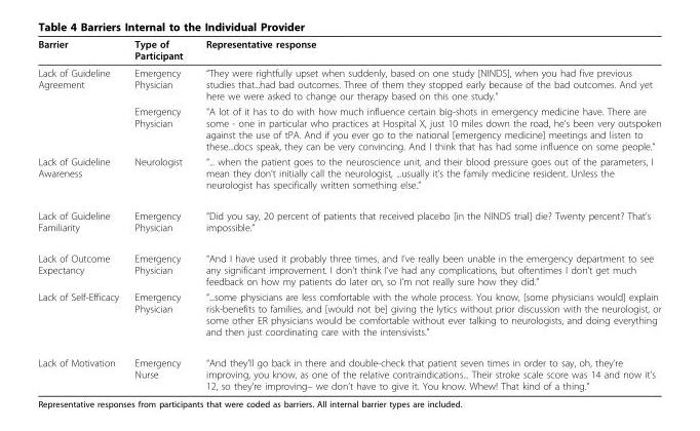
<table><thead><tr><td>Barrier</td><td>Type of Participant</td><td>Representative response</td></tr></thead><tbody><tr><td rowspan="2">Lack of Guideline Agreement</td><td>Emergency Physician</td><td>“They were rightfully upset when suddenly, based on one study [NINDS], when you had five previous studies that...had bad outcomes. Three of them they stopped early because of the bad outcomes. And yet here we were asked to change our therapy based on this one study.”</td></tr><tr><td>Emergency Physician</td><td>“A lot of it has to do with how much influence certain big-shots in emergency medicine have. There are some - one in particular who practices at Hospital X, just 10 miles down the road, he’s been very outspoken against the use of tPA. And if you ever go to the national [emergency medicine] meetings and listen to these...docs speak, they can be very convincing. And I think that has had some influence on some people.”</td></tr><tr><td>Lack of Guideline Awareness</td><td>Neurologist</td><td>“... when the patient goes to the neuroscience unit, and their blood pressure goes out of the parameters, I mean they don’t initially call the neurologist, ...usually it’s the family medicine resident. Unless the neurologist has specifically written something else.”</td></tr><tr><td>Lack of Guideline Familiarity</td><td>Emergency Physician</td><td>“Did you say, 20 percent of patients that received placebo [in the NINDS trial] die? Twenty percent? That’s impossible.”</td></tr><tr><td>Lack of Outcome Expectancy</td><td>Emergency Physician</td><td>“And I have used it probably three times, and I’ve really been unable in the emergency department to see any significant improvement. I don’t think I’ve had any complications, but oftentimes I don’t get much feedback on how my patients do later on, so I’m not really sure how they did.”</td></tr><tr><td>Lack of Self-Efficacy</td><td>Emergency Physician</td><td>“...some physicians are less comfortable with the whole process. You know, [some physicians would] explain risk-benefits to families, and [would not be] giving the lytics without prior discussion with the neurologist, or some other ER physicians would be comfortable without ever talking to neurologists, and doing everything and then just coordinating care with the intensivists.”</td></tr><tr><td>Lack of Motivation</td><td>Emergency Nurse</td><td>“And they’ll go back in there and double-check that patient seven times in order to say, oh, they’re improving, you know, as one of the relative contraindications... Their stroke scale score was 14 and now it’s 12, so they’re improving– we don’t have to give it. You know. Whew! That kind of a thing.”</td></tr></tbody></table>